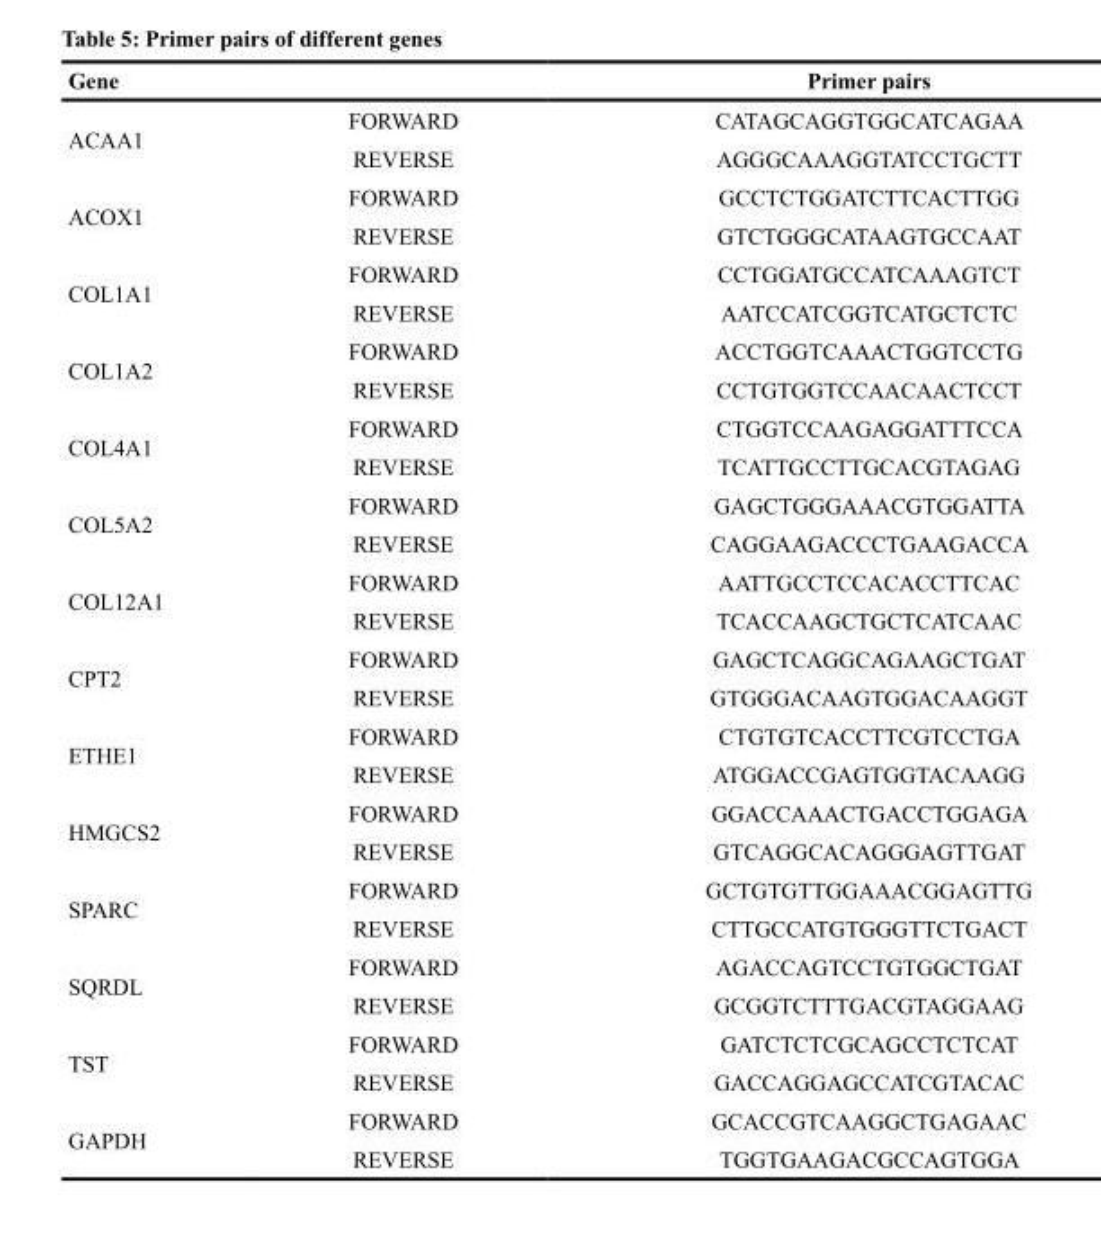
<table><thead><tr><td>Gene</td><td></td><td>Primer pairs</td></tr></thead><tbody><tr><td rowspan="2">ACAA1</td><td>FORWARD</td><td>CATAGCAGGTGGCATCAGAA</td></tr><tr><td>REVERSE</td><td>AGGGCAAAGGTATCCTGCTT</td></tr><tr><td rowspan="2">ACOX1</td><td>FORWARD</td><td>GCCTCTGGATCTTCACTTGG</td></tr><tr><td>REVERSE</td><td>GTCTGGGCATAAGTGCCAAT</td></tr><tr><td rowspan="2">COL1A1</td><td>FORWARD</td><td>CCTGGATGCCATCAAAGTCT</td></tr><tr><td>REVERSE</td><td>AATCCATCGGTCATGCTCTC</td></tr><tr><td rowspan="2">COL1A2</td><td>FORWARD</td><td>ACCTGGTCAAACTGGTCCTG</td></tr><tr><td>REVERSE</td><td>CCTGTGGTCCAACAACTCCT</td></tr><tr><td rowspan="2">COL4A1</td><td>FORWARD</td><td>CTGGTCCAAGAGGATTTCCA</td></tr><tr><td>REVERSE</td><td>TCATTGCCTTGCACGTAGAG</td></tr><tr><td rowspan="2">COL5A2</td><td>FORWARD</td><td>GAGCTGGGAAACGTGGATTA</td></tr><tr><td>REVERSE</td><td>CAGGAAGACCCTGAAGACCA</td></tr><tr><td rowspan="2">COL12A1</td><td>FORWARD</td><td>AATTGCCTCCACACCTTCAC</td></tr><tr><td>REVERSE</td><td>TCACCAAGCTGCTCATCAAC</td></tr><tr><td rowspan="2">CPT2</td><td>FORWARD</td><td>GAGCTCAGGCAGAAGCTGAT</td></tr><tr><td>REVERSE</td><td>GTGGGACAAGTGGACAAGGT</td></tr><tr><td rowspan="2">ETHE1</td><td>FORWARD</td><td>CTGTGTCACCTTCGTCCTGA</td></tr><tr><td>REVERSE</td><td>ATGGACCGAGTGGTACAAGG</td></tr><tr><td rowspan="2">HMGCS2</td><td>FORWARD</td><td>GGACCAAACTGACCTGGAGA</td></tr><tr><td>REVERSE</td><td>GTCAGGCACAGGGAGTTGAT</td></tr><tr><td rowspan="2">SPARC</td><td>FORWARD</td><td>GCTGTGTTGGAAACGGAGTTG</td></tr><tr><td>REVERSE</td><td>CTTGCCATGTGGGTTCTGACT</td></tr><tr><td rowspan="2">SQRDL</td><td>FORWARD</td><td>AGACCAGTCCTGTGGCTGAT</td></tr><tr><td>REVERSE</td><td>GCGGTCTTTGACGTAGGAAG</td></tr><tr><td rowspan="2">TST</td><td>FORWARD</td><td>GATCTCTCGCAGCCTCTCAT</td></tr><tr><td>REVERSE</td><td>GACCAGGAGCCATCGTACAC</td></tr><tr><td rowspan="2">GAPDH</td><td>FORWARD</td><td>GCACCGTCAAGGCTGAGAAC</td></tr><tr><td>REVERSE</td><td>TGGTGAAGACGCCAGTGGA</td></tr></tbody></table>